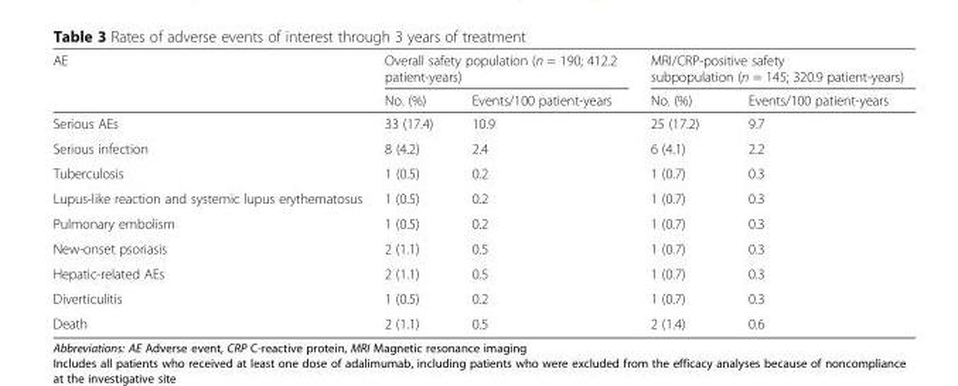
<table><thead><tr><td rowspan="2">AE</td><td colspan="2">Overall safety population (n = 190; 412.2 patient-years)</td><td colspan="2">MRI/CRP-positive safety subpopulation (n = 145; 320.9 patient-years)</td></tr><tr><td>No. (%)</td><td>Events/100 patient-years</td><td>No. (%)</td><td>Events/100 patient-years</td></tr></thead><tbody><tr><td>Serious AEs</td><td>33 (17.4)</td><td>10.9</td><td>25 (17.2)</td><td>9.7</td></tr><tr><td>Serious infection</td><td>8 (4.2)</td><td>2.4</td><td>6 (4.1)</td><td>2.2</td></tr><tr><td>Tuberculosis</td><td>1 (0.5)</td><td>0.2</td><td>1 (0.7)</td><td>0.3</td></tr><tr><td>Lupus-like reaction and systemic lupus erythematosus</td><td>1 (0.5)</td><td>0.2</td><td>1 (0.7)</td><td>0.3</td></tr><tr><td>Pulmonary embolism</td><td>1 (0.5)</td><td>0.2</td><td>1 (0.7)</td><td>0.3</td></tr><tr><td>New-onset psoriasis</td><td>2 (1.1)</td><td>0.5</td><td>1 (0.7)</td><td>0.3</td></tr><tr><td>Hepatic-related AEs</td><td>2 (1.1)</td><td>0.5</td><td>1 (0.7)</td><td>0.3</td></tr><tr><td>Diverticulitis</td><td>1 (0.5)</td><td>0.2</td><td>1 (0.7)</td><td>0.3</td></tr><tr><td>Death</td><td>2 (1.1)</td><td>0.5</td><td>2 (1.4)</td><td>0.6</td></tr></tbody></table>